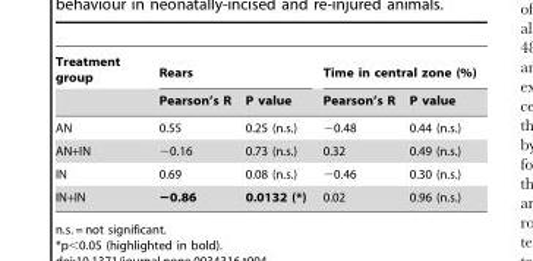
<table><thead><tr><td rowspan="2">Treatment group</td><td colspan="2">Rears</td><td colspan="2">Time in central zone (%)</td></tr><tr><td>Pearson’s R</td><td>P value</td><td>Pearson’s R</td><td>P value</td></tr></thead><tbody><tr><td>AN</td><td>0.55</td><td>0.25 (n.s.)</td><td>−0.48</td><td>0.44 (n.s.)</td></tr><tr><td>AN+IN</td><td>−0.16</td><td>0.73 (n.s.)</td><td>0.32</td><td>0.49 (n.s.)</td></tr><tr><td>IN</td><td>0.69</td><td>0.08 (n.s.)</td><td>−0.46</td><td>0.30 (n.s.)</td></tr><tr><td>IN+IN</td><td>−0.86</td><td>0.0132 (*)</td><td>0.02</td><td>0.96 (n.s.)</td></tr></tbody></table>